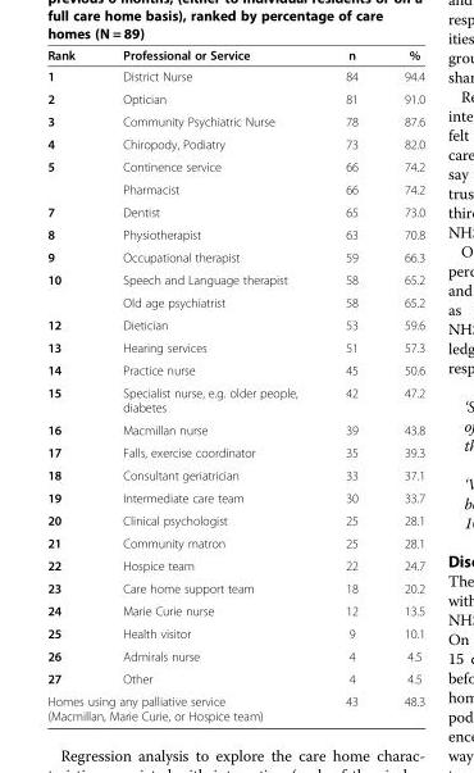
<table><thead><tr><td>Rank</td><td>Professional or Service</td><td>n</td><td>%</td></tr></thead><tbody><tr><td>1</td><td>District Nurse</td><td>84</td><td>94.4</td></tr><tr><td>2</td><td>Optician</td><td>81</td><td>91.0</td></tr><tr><td>3</td><td>Community Psychiatric Nurse</td><td>78</td><td>87.6</td></tr><tr><td>4</td><td>Chiropody, Podiatry</td><td>73</td><td>82.0</td></tr><tr><td rowspan="2">5</td><td>Continence service</td><td>66</td><td>74.2</td></tr><tr><td>Pharmacist</td><td>66</td><td>74.2</td></tr><tr><td>7</td><td>Dentist</td><td>65</td><td>73.0</td></tr><tr><td>8</td><td>Physiotherapist</td><td>63</td><td>70.8</td></tr><tr><td>9</td><td>Occupational therapist</td><td>59</td><td>66.3</td></tr><tr><td rowspan="2">10</td><td>Speech and Language therapist</td><td>58</td><td>65.2</td></tr><tr><td>Old age psychiatrist</td><td>58</td><td>65.2</td></tr><tr><td>12</td><td>Dietician</td><td>53</td><td>59.6</td></tr><tr><td>13</td><td>Hearing services</td><td>51</td><td>57.3</td></tr><tr><td>14</td><td>Practice nurse</td><td>45</td><td>50.6</td></tr><tr><td>15</td><td>Specialist nurse, e.g. older people, diabetes</td><td>42</td><td>47.2</td></tr><tr><td>16</td><td>Macmillan nurse</td><td>39</td><td>43.8</td></tr><tr><td>17</td><td>Falls, exercise coordinator</td><td>35</td><td>39.3</td></tr><tr><td>18</td><td>Consultant geriatrician</td><td>33</td><td>37.1</td></tr><tr><td>19</td><td>Intermediate care team</td><td>30</td><td>33.7</td></tr><tr><td>20</td><td>Clinical psychologist</td><td>25</td><td>28.1</td></tr><tr><td>21</td><td>Community matron</td><td>25</td><td>28.1</td></tr><tr><td>22</td><td>Hospice team</td><td>22</td><td>24.7</td></tr><tr><td>23</td><td>Care home support team</td><td>18</td><td>20.2</td></tr><tr><td>24</td><td>Marie Curie nurse</td><td>12</td><td>13.5</td></tr><tr><td>25</td><td>Health visitor</td><td>9</td><td>10.1</td></tr><tr><td>26</td><td>Admirals nurse</td><td>4</td><td>4.5</td></tr><tr><td>27</td><td>Other</td><td>4</td><td>4.5</td></tr><tr><td colspan="2">Homes using any palliative service (Macmillan, Marie Curie, or Hospice team)</td><td>43</td><td>48.3</td></tr></tbody></table>